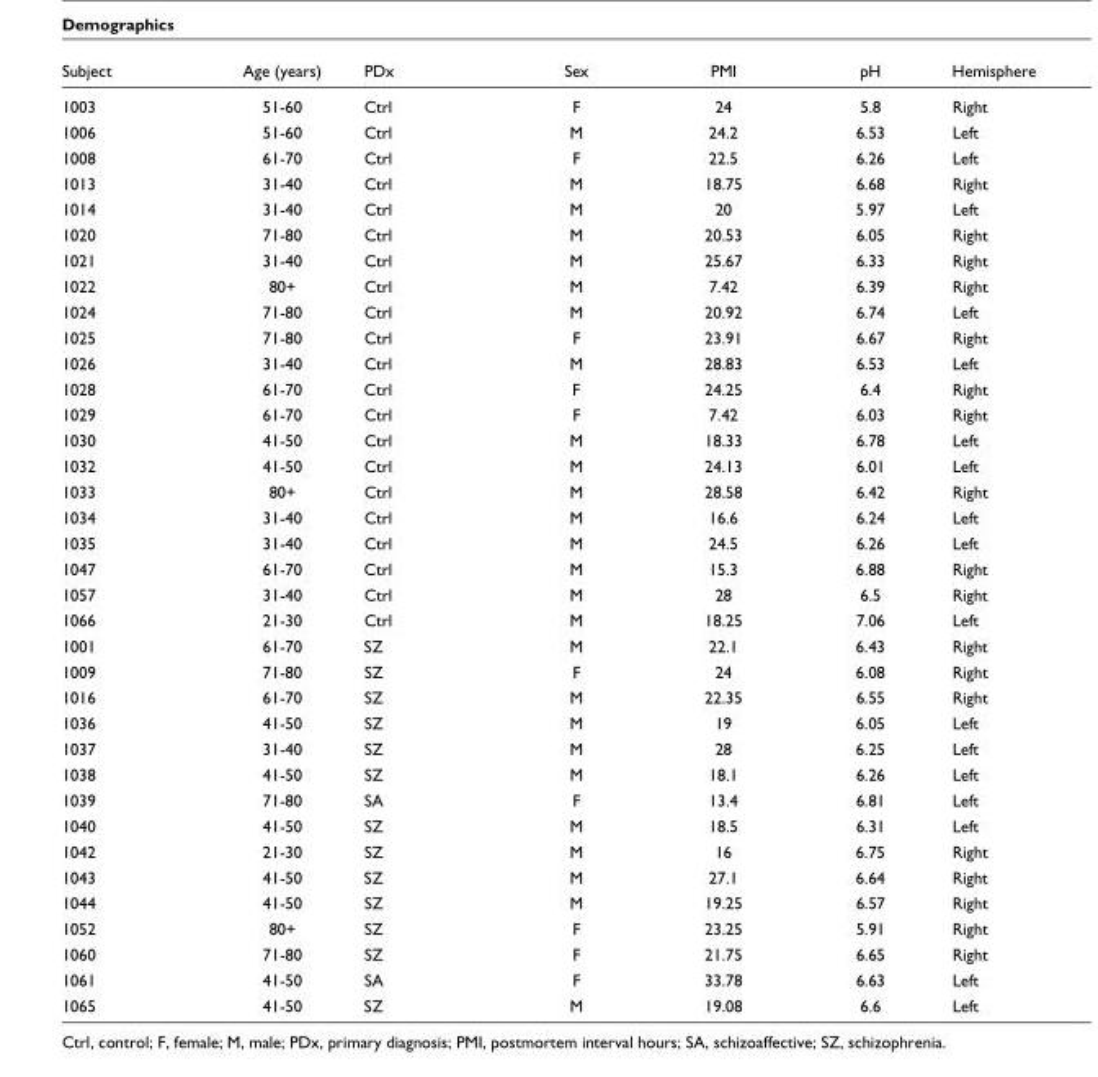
<table><thead><tr><td>Subject</td><td>Age (years)</td><td>PDx</td><td>Sex</td><td>PMI</td><td>pH</td><td>Hemisphere</td></tr></thead><tbody><tr><td>1003</td><td>51-60</td><td>Ctrl</td><td>F</td><td>24</td><td>5.8</td><td>Right</td></tr><tr><td>1006</td><td>51-60</td><td>Ctrl</td><td>M</td><td>24.2</td><td>6.53</td><td>Left</td></tr><tr><td>1008</td><td>61-70</td><td>Ctrl</td><td>F</td><td>22.5</td><td>6.26</td><td>Left</td></tr><tr><td>1013</td><td>31-40</td><td>Ctrl</td><td>M</td><td>18.75</td><td>6.68</td><td>Right</td></tr><tr><td>1014</td><td>31-40</td><td>Ctrl</td><td>M</td><td>20</td><td>5.97</td><td>Left</td></tr><tr><td>1020</td><td>71-80</td><td>Ctrl</td><td>M</td><td>20.53</td><td>6.05</td><td>Right</td></tr><tr><td>1021</td><td>31-40</td><td>Ctrl</td><td>M</td><td>25.67</td><td>6.33</td><td>Right</td></tr><tr><td>1022</td><td>80+</td><td>Ctrl</td><td>M</td><td>7.42</td><td>6.39</td><td>Right</td></tr><tr><td>1024</td><td>71-80</td><td>Ctrl</td><td>M</td><td>20.92</td><td>6.74</td><td>Left</td></tr><tr><td>1025</td><td>71-80</td><td>Ctrl</td><td>F</td><td>23.91</td><td>6.67</td><td>Right</td></tr><tr><td>1026</td><td>31-40</td><td>Ctrl</td><td>M</td><td>28.83</td><td>6.53</td><td>Left</td></tr><tr><td>1028</td><td>61-70</td><td>Ctrl</td><td>F</td><td>24.25</td><td>6.4</td><td>Right</td></tr><tr><td>1029</td><td>61-70</td><td>Ctrl</td><td>F</td><td>7.42</td><td>6.03</td><td>Right</td></tr><tr><td>1030</td><td>41-50</td><td>Ctrl</td><td>M</td><td>18.33</td><td>6.78</td><td>Left</td></tr><tr><td>1032</td><td>41-50</td><td>Ctrl</td><td>M</td><td>24.13</td><td>6.01</td><td>Left</td></tr><tr><td>1033</td><td>80+</td><td>Ctrl</td><td>M</td><td>28.58</td><td>6.42</td><td>Right</td></tr><tr><td>1034</td><td>31-40</td><td>Ctrl</td><td>M</td><td>16.6</td><td>6.24</td><td>Left</td></tr><tr><td>1035</td><td>31-40</td><td>Ctrl</td><td>M</td><td>24.5</td><td>6.26</td><td>Left</td></tr><tr><td>1047</td><td>61-70</td><td>Ctrl</td><td>M</td><td>15.3</td><td>6.88</td><td>Right</td></tr><tr><td>1057</td><td>31-40</td><td>Ctrl</td><td>M</td><td>28</td><td>6.5</td><td>Right</td></tr><tr><td>1066</td><td>21-30</td><td>Ctrl</td><td>M</td><td>18.25</td><td>7.06</td><td>Left</td></tr><tr><td>1001</td><td>61-70</td><td>SZ</td><td>M</td><td>22.1</td><td>6.43</td><td>Right</td></tr><tr><td>1009</td><td>71-80</td><td>SZ</td><td>F</td><td>24</td><td>6.08</td><td>Right</td></tr><tr><td>1016</td><td>61-70</td><td>SZ</td><td>M</td><td>22.35</td><td>6.55</td><td>Right</td></tr><tr><td>1036</td><td>41-50</td><td>SZ</td><td>M</td><td>19</td><td>6.05</td><td>Left</td></tr><tr><td>1037</td><td>31-40</td><td>SZ</td><td>M</td><td>28</td><td>6.25</td><td>Left</td></tr><tr><td>1038</td><td>41-50</td><td>SZ</td><td>M</td><td>18.1</td><td>6.26</td><td>Left</td></tr><tr><td>1039</td><td>71-80</td><td>SA</td><td>F</td><td>13.4</td><td>6.81</td><td>Left</td></tr><tr><td>1040</td><td>41-50</td><td>SZ</td><td>M</td><td>18.5</td><td>6.31</td><td>Left</td></tr><tr><td>1042</td><td>21-30</td><td>SZ</td><td>M</td><td>16</td><td>6.75</td><td>Right</td></tr><tr><td>1043</td><td>41-50</td><td>SZ</td><td>M</td><td>27.1</td><td>6.64</td><td>Right</td></tr><tr><td>1044</td><td>41-50</td><td>SZ</td><td>M</td><td>19.25</td><td>6.57</td><td>Right</td></tr><tr><td>1052</td><td>80+</td><td>SZ</td><td>F</td><td>23.25</td><td>5.91</td><td>Right</td></tr><tr><td>1060</td><td>71-80</td><td>SZ</td><td>F</td><td>21.75</td><td>6.65</td><td>Right</td></tr><tr><td>1061</td><td>41-50</td><td>SA</td><td>F</td><td>33.78</td><td>6.63</td><td>Left</td></tr><tr><td>1065</td><td>41-50</td><td>SZ</td><td>M</td><td>19.08</td><td>6.6</td><td>Left</td></tr></tbody></table>